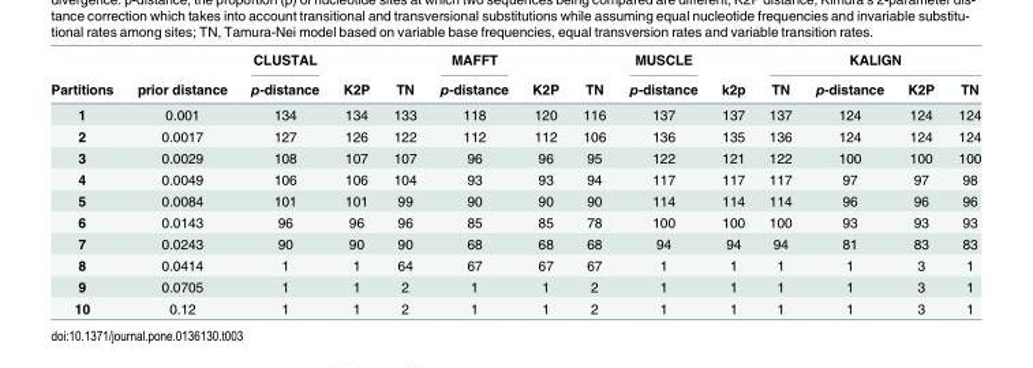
<table><thead><tr><td rowspan="2">Partitions</td><td rowspan="2">prior distance</td><td rowspan="2">CLUSTAL p-distance</td><td rowspan="2">K2P</td><td rowspan="2">TN</td><td rowspan="2">MAFFT p-distance</td><td rowspan="2">K2P</td><td rowspan="2">TN</td><td rowspan="2">MUSCLE p-distance</td><td rowspan="2">k2p</td><td colspan="4">KALIGN</td></tr><tr><td>TN</td><td>p-distance</td><td>K2P</td><td>TN</td></tr></thead><tbody><tr><td>1</td><td>0.001</td><td>134</td><td>134</td><td>133</td><td>118</td><td>120</td><td>116</td><td>137</td><td>137</td><td>137</td><td>124</td><td>124</td><td>124</td></tr><tr><td>2</td><td>0.0017</td><td>127</td><td>126</td><td>122</td><td>112</td><td>112</td><td>106</td><td>136</td><td>135</td><td>136</td><td>124</td><td>124</td><td>124</td></tr><tr><td>3</td><td>0.0029</td><td>108</td><td>107</td><td>107</td><td>96</td><td>96</td><td>95</td><td>122</td><td>121</td><td>122</td><td>100</td><td>100</td><td>100</td></tr><tr><td>4</td><td>0.0049</td><td>106</td><td>106</td><td>104</td><td>93</td><td>93</td><td>94</td><td>117</td><td>117</td><td>117</td><td>97</td><td>97</td><td>98</td></tr><tr><td>5</td><td>0.0084</td><td>101</td><td>101</td><td>99</td><td>90</td><td>90</td><td>90</td><td>114</td><td>114</td><td>114</td><td>96</td><td>96</td><td>96</td></tr><tr><td>6</td><td>0.0143</td><td>96</td><td>96</td><td>96</td><td>85</td><td>85</td><td>78</td><td>100</td><td>100</td><td>100</td><td>93</td><td>93</td><td>93</td></tr><tr><td>7</td><td>0.0243</td><td>90</td><td>90</td><td>90</td><td>68</td><td>68</td><td>68</td><td>94</td><td>94</td><td>94</td><td>81</td><td>83</td><td>83</td></tr><tr><td>8</td><td>0.0414</td><td>1</td><td>1</td><td>64</td><td>67</td><td>67</td><td>67</td><td>1</td><td>1</td><td>1</td><td>1</td><td>3</td><td>1</td></tr><tr><td>9</td><td>0.0705</td><td>1</td><td>1</td><td>2</td><td>1</td><td>1</td><td>2</td><td>1</td><td>1</td><td>1</td><td>1</td><td>3</td><td>1</td></tr><tr><td>10</td><td>0.12</td><td>1</td><td>1</td><td>2</td><td>1</td><td>1</td><td>2</td><td>1</td><td>1</td><td>1</td><td>1</td><td>3</td><td>1</td></tr></tbody></table>